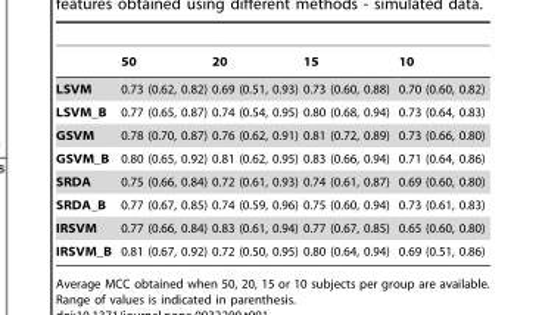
<table><thead><tr><td></td><td>50</td><td>20</td><td>15</td><td>10</td></tr></thead><tbody><tr><td>LSVM</td><td>0.73 (0.62, 0.82)</td><td>0.69 (0.51, 0.93)</td><td>0.73 (0.60, 0.88)</td><td>0.70 (0.60, 0.82)</td></tr><tr><td>LSVM_B</td><td>0.77 (0.65, 0.87)</td><td>0.74 (0.54, 0.95)</td><td>0.80 (0.68, 0.94)</td><td>0.73 (0.64, 0.83)</td></tr><tr><td>GSVM</td><td>0.78 (0.70, 0.87)</td><td>0.76 (0.62, 0.91)</td><td>0.81 (0.72, 0.89)</td><td>0.73 (0.66, 0.80)</td></tr><tr><td>GSVM_B</td><td>0.80 (0.65, 0.92)</td><td>0.81 (0.62, 0.95)</td><td>0.83 (0.66, 0.94)</td><td>0.71 (0.64, 0.86)</td></tr><tr><td>SRDA</td><td>0.75 (0.66, 0.84)</td><td>0.72 (0.61, 0.93)</td><td>0.74 (0.61, 0.87)</td><td>0.69 (0.60, 0.80)</td></tr><tr><td>SRDA_B</td><td>0.77 (0.67, 0.85)</td><td>0.74 (0.59, 0.96)</td><td>0.75 (0.60, 0.94)</td><td>0.73 (0.61, 0.83)</td></tr><tr><td>IRSVM</td><td>0.77 (0.66, 0.84)</td><td>0.83 (0.61, 0.94)</td><td>0.77 (0.67, 0.85)</td><td>0.65 (0.60, 0.80)</td></tr><tr><td>IRSVM_B</td><td>0.81 (0.67, 0.92)</td><td>0.72 (0.50, 0.95)</td><td>0.80 (0.64, 0.94)</td><td>0.69 (0.51, 0.86)</td></tr></tbody></table>